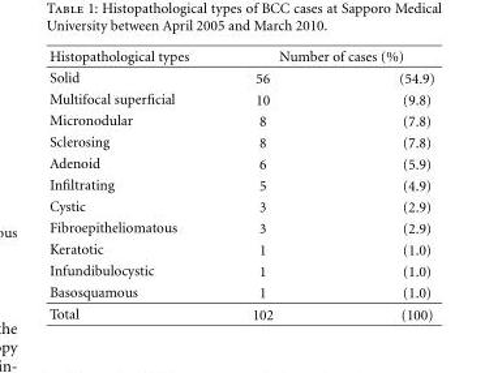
<table><thead><tr><td rowspan="2">Histopathological types Solid</td><td colspan="2">Number of cases (%)</td></tr><tr><td>56</td><td>(54.9)</td></tr></thead><tbody><tr><td>Multifocal superficial</td><td>10</td><td>(9.8)</td></tr><tr><td>Micronodular</td><td>8</td><td>(7.8)</td></tr><tr><td>Sclerosing</td><td>8</td><td>(7.8)</td></tr><tr><td>Adenoid</td><td>6</td><td>(5.9)</td></tr><tr><td>Infiltrating</td><td>5</td><td>(4.9)</td></tr><tr><td>Cystic</td><td>3</td><td>(2.9)</td></tr><tr><td>Fibroepitheliomatous</td><td>3</td><td>(2.9)</td></tr><tr><td>Keratotic</td><td>1</td><td>(1.0)</td></tr><tr><td>Infundibulocystic</td><td>1</td><td>(1.0)</td></tr><tr><td>Basosquamous</td><td>1</td><td>(1.0)</td></tr><tr><td>Total</td><td>102</td><td>(100)</td></tr></tbody></table>